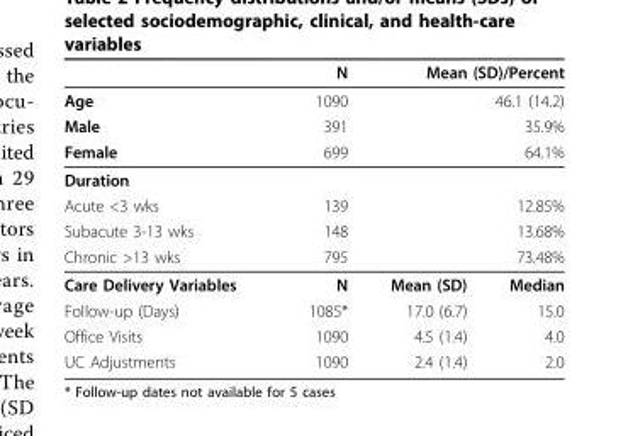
<table><thead><tr><td></td><td>N</td><td colspan="2">Mean (SD)/Percent</td></tr></thead><tbody><tr><td>Age</td><td>1090</td><td colspan="2">46.1 (14.2)</td></tr><tr><td>Male</td><td>391</td><td colspan="2">35.9%</td></tr><tr><td>Female</td><td>699</td><td colspan="2">64.1%</td></tr><tr><td colspan="4">Duration</td></tr><tr><td>Acute &lt;3 wks</td><td>139</td><td colspan="2">12.85%</td></tr><tr><td>Subacute 3-13 wks</td><td>148</td><td colspan="2">13.68%</td></tr><tr><td>Chronic &gt;13 wks</td><td>795</td><td colspan="2">73.48%</td></tr><tr><td>Care Delivery Variables</td><td>N</td><td>Mean (SD)</td><td>Median</td></tr><tr><td>Follow-up (Days)</td><td>1085*</td><td>17.0 (6.7)</td><td>15.0</td></tr><tr><td>Office Visits</td><td>1090</td><td>4.5 (1.4)</td><td>4.0</td></tr><tr><td>UC Adjustments</td><td>1090</td><td>2.4 (1.4)</td><td>2.0</td></tr></tbody></table>